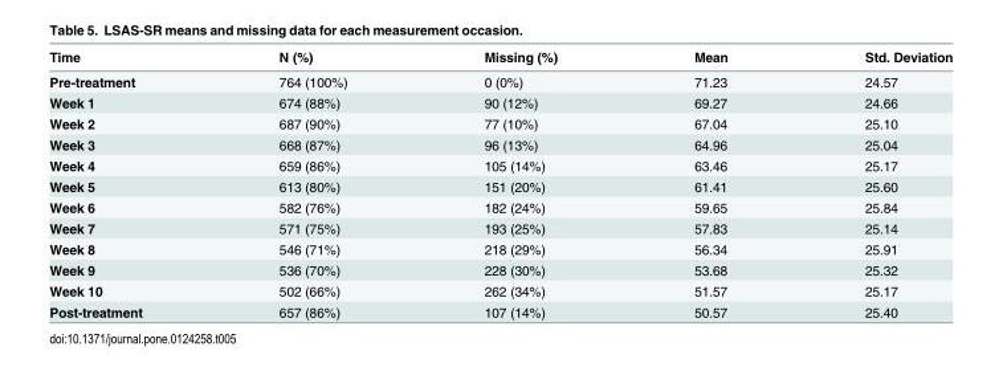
<table><thead><tr><td>Time</td><td>N (%)</td><td>Missing (%)</td><td>Mean</td><td>Std. Deviation</td></tr></thead><tbody><tr><td>Pre-treatment</td><td>764 (100%)</td><td>0 (0%)</td><td>71.23</td><td>24.57</td></tr><tr><td>Week 1</td><td>674 (88%)</td><td>90 (12%)</td><td>69.27</td><td>24.66</td></tr><tr><td>Week 2</td><td>687 (90%)</td><td>77 (10%)</td><td>67.04</td><td>25.10</td></tr><tr><td>Week 3</td><td>668 (87%)</td><td>96 (13%)</td><td>64.96</td><td>25.04</td></tr><tr><td>Week 4</td><td>659 (86%)</td><td>105 (14%)</td><td>63.46</td><td>25.17</td></tr><tr><td>Week 5</td><td>613 (80%)</td><td>151 (20%)</td><td>61.41</td><td>25.60</td></tr><tr><td>Week 6</td><td>582 (76%)</td><td>182 (24%)</td><td>59.65</td><td>25.84</td></tr><tr><td>Week 7</td><td>571 (75%)</td><td>193 (25%)</td><td>57.83</td><td>25.14</td></tr><tr><td>Week 8</td><td>546 (71%)</td><td>218 (29%)</td><td>56.34</td><td>25.91</td></tr><tr><td>Week 9</td><td>536 (70%)</td><td>228 (30%)</td><td>53.68</td><td>25.32</td></tr><tr><td>Week 10</td><td>502 (66%)</td><td>262 (34%)</td><td>51.57</td><td>25.17</td></tr><tr><td>Post-treatment</td><td>657 (86%)</td><td>107 (14%)</td><td>50.57</td><td>25.40</td></tr></tbody></table>